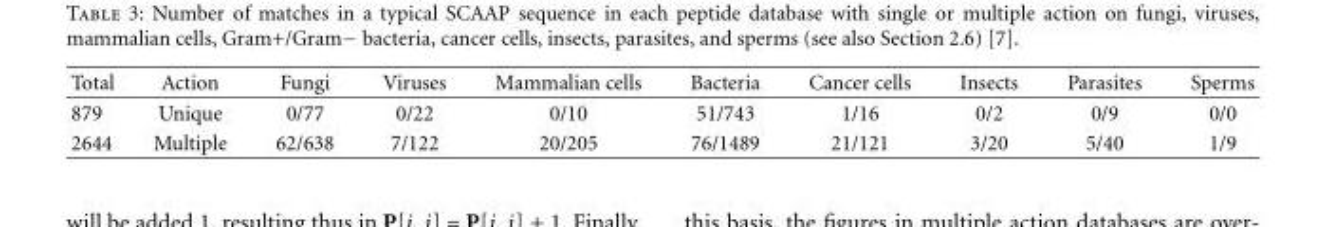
<table><thead><tr><td>Total</td><td>Action</td><td>Fungi</td><td>Viruses</td><td>Mammalian cells</td><td>Bacteria</td><td>Cancer cells</td><td>Insects</td><td>Parasites</td><td>Sperms</td></tr></thead><tbody><tr><td>879</td><td>Unique</td><td>0/77</td><td>0/22</td><td>0/10</td><td>51/743</td><td>1/16</td><td>0/2</td><td>0/9</td><td>0/0</td></tr><tr><td>2644</td><td>Multiple</td><td>62/638</td><td>7/122</td><td>20/205</td><td>76/1489</td><td>21/121</td><td>3/20</td><td>5/40</td><td>1/9</td></tr></tbody></table>